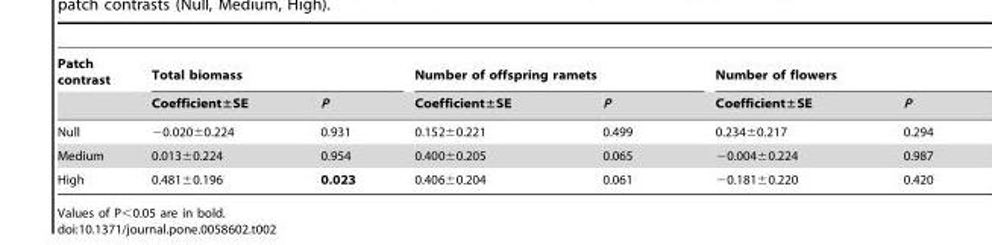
<table><thead><tr><td rowspan="2">Patch contrast</td><td colspan="2">Total biomass</td><td colspan="2">Number of offspring ramets</td><td colspan="2">Number of flowers</td></tr><tr><td>Coefficient±SE</td><td>P</td><td>Coefficient±SE</td><td>P</td><td>Coefficient±SE</td><td>P</td></tr></thead><tbody><tr><td>Null</td><td>−0.020±0.224</td><td>0.931</td><td>0.152±0.221</td><td>0.499</td><td>0.234±0.217</td><td>0.294</td></tr><tr><td>Medium</td><td>0.013±0.224</td><td>0.954</td><td>0.400±0.205</td><td>0.065</td><td>−0.004±0.224</td><td>0.987</td></tr><tr><td>High</td><td>0.481±0.196</td><td>0.023</td><td>0.406±0.204</td><td>0.061</td><td>−0.181±0.220</td><td>0.420</td></tr></tbody></table>